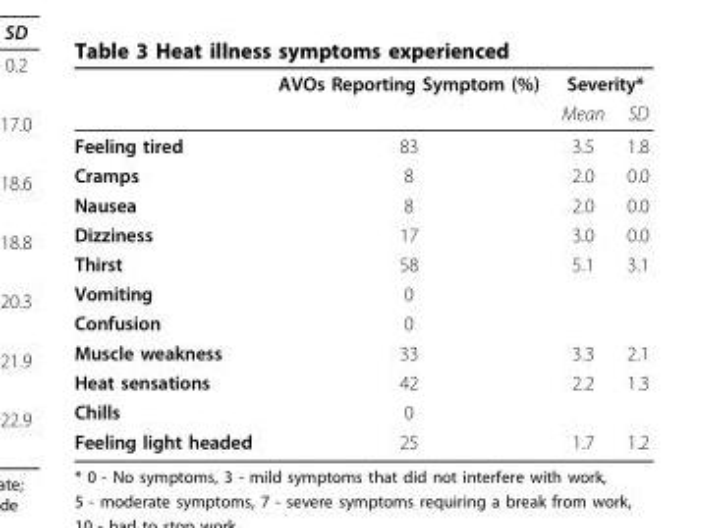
<table><thead><tr><td rowspan="2"></td><td rowspan="2">AVOs Reporting Symptom (%)</td><td colspan="2">Severity*</td></tr><tr><td>Mean</td><td>SD</td></tr></thead><tbody><tr><td>Feeling tired</td><td>83</td><td>3.5</td><td>1.8</td></tr><tr><td>Cramps</td><td>8</td><td>2.0</td><td>0.0</td></tr><tr><td>Nausea</td><td>8</td><td>2.0</td><td>0.0</td></tr><tr><td>Dizziness</td><td>17</td><td>3.0</td><td>0.0</td></tr><tr><td>Thirst</td><td>58</td><td>5.1</td><td>3.1</td></tr><tr><td>Vomiting</td><td>0</td><td></td><td></td></tr><tr><td>Confusion</td><td>0</td><td></td><td></td></tr><tr><td>Muscle weakness</td><td>33</td><td>3.3</td><td>2.1</td></tr><tr><td>Heat sensations</td><td>42</td><td>2.2</td><td>1.3</td></tr><tr><td>Chills</td><td>0</td><td></td><td></td></tr><tr><td>Feeling light headed</td><td>25</td><td>1.7</td><td>1.2</td></tr></tbody></table>